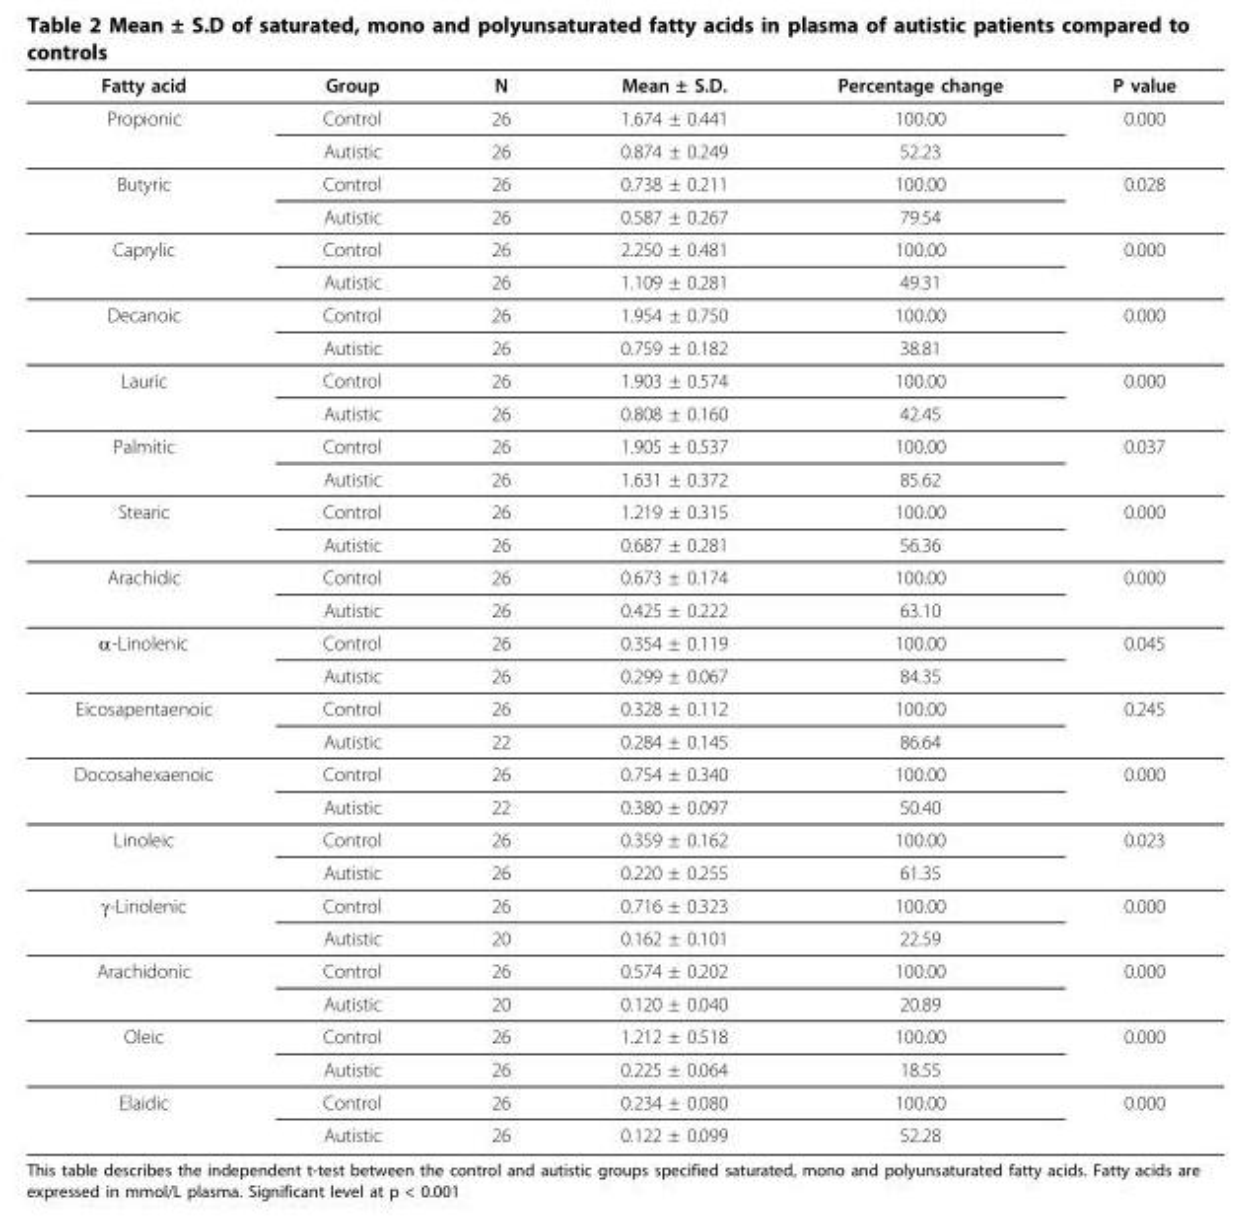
<table><thead><tr><td>Fatty acid</td><td>Group</td><td>N</td><td>Mean ± S.D.</td><td>Percentage change</td><td>P value</td></tr></thead><tbody><tr><td rowspan="2">Propionic</td><td>Control</td><td>26</td><td>1.674 ± 0.441</td><td>100.00</td><td>0.000</td></tr><tr><td>Autistic</td><td>26</td><td>0.874 ± 0.249</td><td>52.23</td><td></td></tr><tr><td rowspan="2">Butyric</td><td>Control</td><td>26</td><td>0.738 ± 0.211</td><td>100.00</td><td>0.028</td></tr><tr><td>Autistic</td><td>26</td><td>0.587 ± 0.267</td><td>79.54</td><td></td></tr><tr><td rowspan="2">Caprylic</td><td>Control</td><td>26</td><td>2.250 ± 0.481</td><td>100.00</td><td>0.000</td></tr><tr><td>Autistic</td><td>26</td><td>1.109 ± 0.281</td><td>49.31</td><td></td></tr><tr><td rowspan="2">Decanoic</td><td>Control</td><td>26</td><td>1.954 ± 0.750</td><td>100.00</td><td>0.000</td></tr><tr><td>Autistic</td><td>26</td><td>0.759 ± 0.182</td><td>38.81</td><td></td></tr><tr><td rowspan="2">Lauric</td><td>Control</td><td>26</td><td>1.903 ± 0.574</td><td>100.00</td><td>0.000</td></tr><tr><td>Autistic</td><td>26</td><td>0.808 ± 0.160</td><td>42.45</td><td></td></tr><tr><td rowspan="2">Palmitic</td><td>Control</td><td>26</td><td>1.905 ± 0.537</td><td>100.00</td><td>0.037</td></tr><tr><td>Autistic</td><td>26</td><td>1.631 ± 0.372</td><td>85.62</td><td></td></tr><tr><td rowspan="2">Stearic</td><td>Control</td><td>26</td><td>1.219 ± 0.315</td><td>100.00</td><td>0.000</td></tr><tr><td>Autistic</td><td>26</td><td>0.687 ± 0.281</td><td>56.36</td><td></td></tr><tr><td rowspan="2">Arachidic</td><td>Control</td><td>26</td><td>0.673 ± 0.174</td><td>100.00</td><td>0.000</td></tr><tr><td>Autistic</td><td>26</td><td>0.425 ± 0.222</td><td>63.10</td><td></td></tr><tr><td rowspan="2">α-Linolenic</td><td>Control</td><td>26</td><td>0.354 ± 0.119</td><td>100.00</td><td>0.045</td></tr><tr><td>Autistic</td><td>26</td><td>0.299 ± 0.067</td><td>84.35</td><td></td></tr><tr><td rowspan="2">Eicosapentaenoic</td><td>Control</td><td>26</td><td>0.328 ± 0.112</td><td>100.00</td><td>0.245</td></tr><tr><td>Autistic</td><td>22</td><td>0.284 ± 0.145</td><td>86.64</td><td></td></tr><tr><td rowspan="2">Docosahexaenoic</td><td>Control</td><td>26</td><td>0.754 ± 0.340</td><td>100.00</td><td>0.000</td></tr><tr><td>Autistic</td><td>22</td><td>0.380 ± 0.097</td><td>50.40</td><td></td></tr><tr><td rowspan="2">Linoleic</td><td>Control</td><td>26</td><td>0.359 ± 0.162</td><td>100.00</td><td>0.023</td></tr><tr><td>Autistic</td><td>26</td><td>0.220 ± 0.255</td><td>61.35</td><td></td></tr><tr><td rowspan="2">γ-Linolenic</td><td>Control</td><td>26</td><td>0.716 ± 0.323</td><td>100.00</td><td>0.000</td></tr><tr><td>Autistic</td><td>20</td><td>0.162 ± 0.101</td><td>22.59</td><td></td></tr><tr><td rowspan="2">Arachidonic</td><td>Control</td><td>26</td><td>0.574 ± 0.202</td><td>100.00</td><td>0.000</td></tr><tr><td>Autistic</td><td>20</td><td>0.120 ± 0.040</td><td>20.89</td><td></td></tr><tr><td rowspan="2">Oleic</td><td>Control</td><td>26</td><td>1.212 ± 0.518</td><td>100.00</td><td>0.000</td></tr><tr><td>Autistic</td><td>26</td><td>0.225 ± 0.064</td><td>18.55</td><td></td></tr><tr><td rowspan="2">Elaidic</td><td>Control</td><td>26</td><td>0.234 ± 0.080</td><td>100.00</td><td>0.000</td></tr><tr><td>Autistic</td><td>26</td><td>0.122 ± 0.099</td><td>52.28</td><td></td></tr></tbody></table>